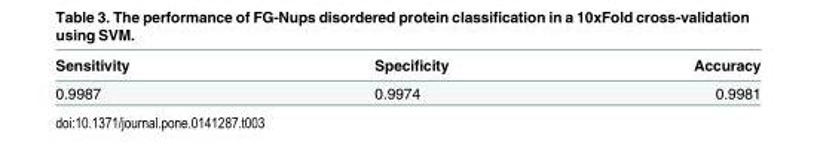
<table><thead><tr><td>Sensitivity</td><td>Specificity</td><td>Accuracy</td></tr></thead><tbody><tr><td>0.9987</td><td>0.9974</td><td>0.9981</td></tr></tbody></table>